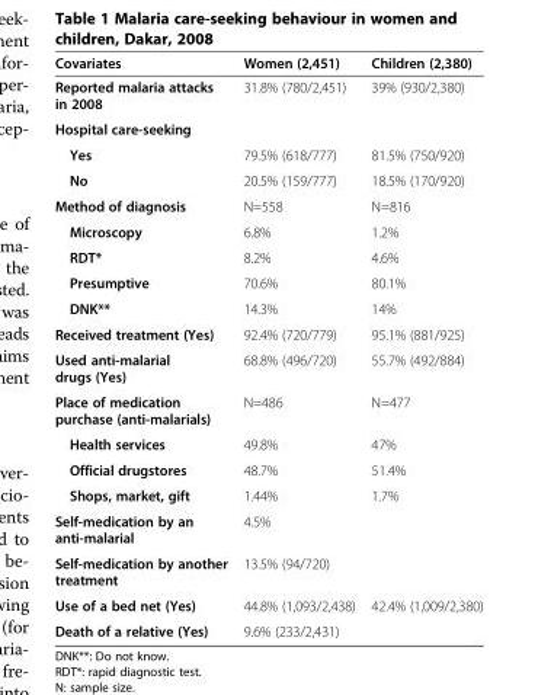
<table><thead><tr><td>Covariates</td><td>Women (2,451)</td><td>Children (2,380)</td></tr></thead><tbody><tr><td>Reported malaria attacks in 2008</td><td>31.8% (780/2,451)</td><td>39% (930/2,380)</td></tr><tr><td colspan="3">Hospital care-seeking</td></tr><tr><td>Yes</td><td>79.5% (618/777)</td><td>81.5% (750/920)</td></tr><tr><td>No</td><td>20.5% (159/777)</td><td>18.5% (170/920)</td></tr><tr><td>Method of diagnosis</td><td>N=558</td><td>N=816</td></tr><tr><td>Microscopy</td><td>6.8%</td><td>1.2%</td></tr><tr><td>RDT*</td><td>8.2%</td><td>4.6%</td></tr><tr><td>Presumptive</td><td>70.6%</td><td>80.1%</td></tr><tr><td>DNK**</td><td>14.3%</td><td>14%</td></tr><tr><td>Received treatment (Yes)</td><td>92.4% (720/779)</td><td>95.1% (881/925)</td></tr><tr><td>Used anti-malarial drugs (Yes)</td><td>68.8% (496/720)</td><td>55.7% (492/884)</td></tr><tr><td>Place of medication purchase (anti-malarials)</td><td>N=486</td><td>N=477</td></tr><tr><td>Health services</td><td>49.8%</td><td>47%</td></tr><tr><td>Official drugstores</td><td>48.7%</td><td>51.4%</td></tr><tr><td>Shops, market, gift</td><td>1.44%</td><td>1.7%</td></tr><tr><td>Self-medication by an anti-malarial</td><td>4.5%</td><td></td></tr><tr><td>Self-medication by another treatment</td><td>13.5% (94/720)</td><td></td></tr><tr><td>Use of a bed net (Yes)</td><td>44.8% (1,093/2,438)</td><td>42.4% (1,009/2,380)</td></tr><tr><td>Death of a relative (Yes)</td><td>9.6% (233/2,431)</td><td></td></tr></tbody></table>